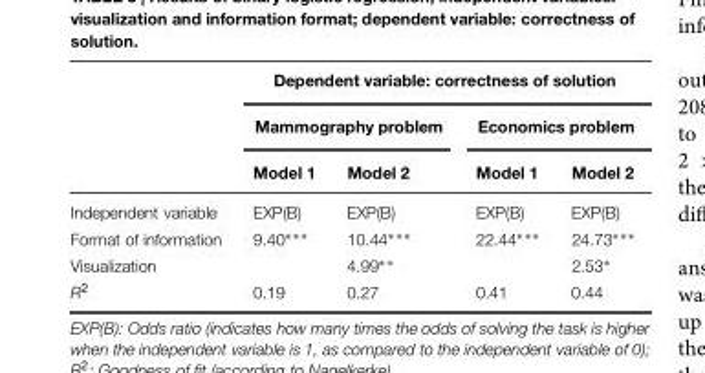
<table><thead><tr><td rowspan="3"></td><td colspan="4">Dependent variable: correctness of solution</td></tr><tr><td colspan="2">Mammography problem</td><td colspan="2">Economics problem</td></tr><tr><td>Model 1</td><td>Model 2</td><td>Model 1</td><td>Model 2</td></tr></thead><tbody><tr><td>Independent variable</td><td>EXP(B)</td><td>EXP(B)</td><td>EXP(B)</td><td>EXP(B)</td></tr><tr><td>Format of information</td><td>9.40∗∗∗</td><td>10.44∗∗∗</td><td>22.44∗∗∗</td><td>24.73∗∗∗</td></tr><tr><td>Visualization</td><td></td><td>4.99∗∗</td><td></td><td>2.53∗</td></tr><tr><td>R<sup>2</sup></td><td>0.19</td><td>0.27</td><td>0.41</td><td>0.44</td></tr></tbody></table>